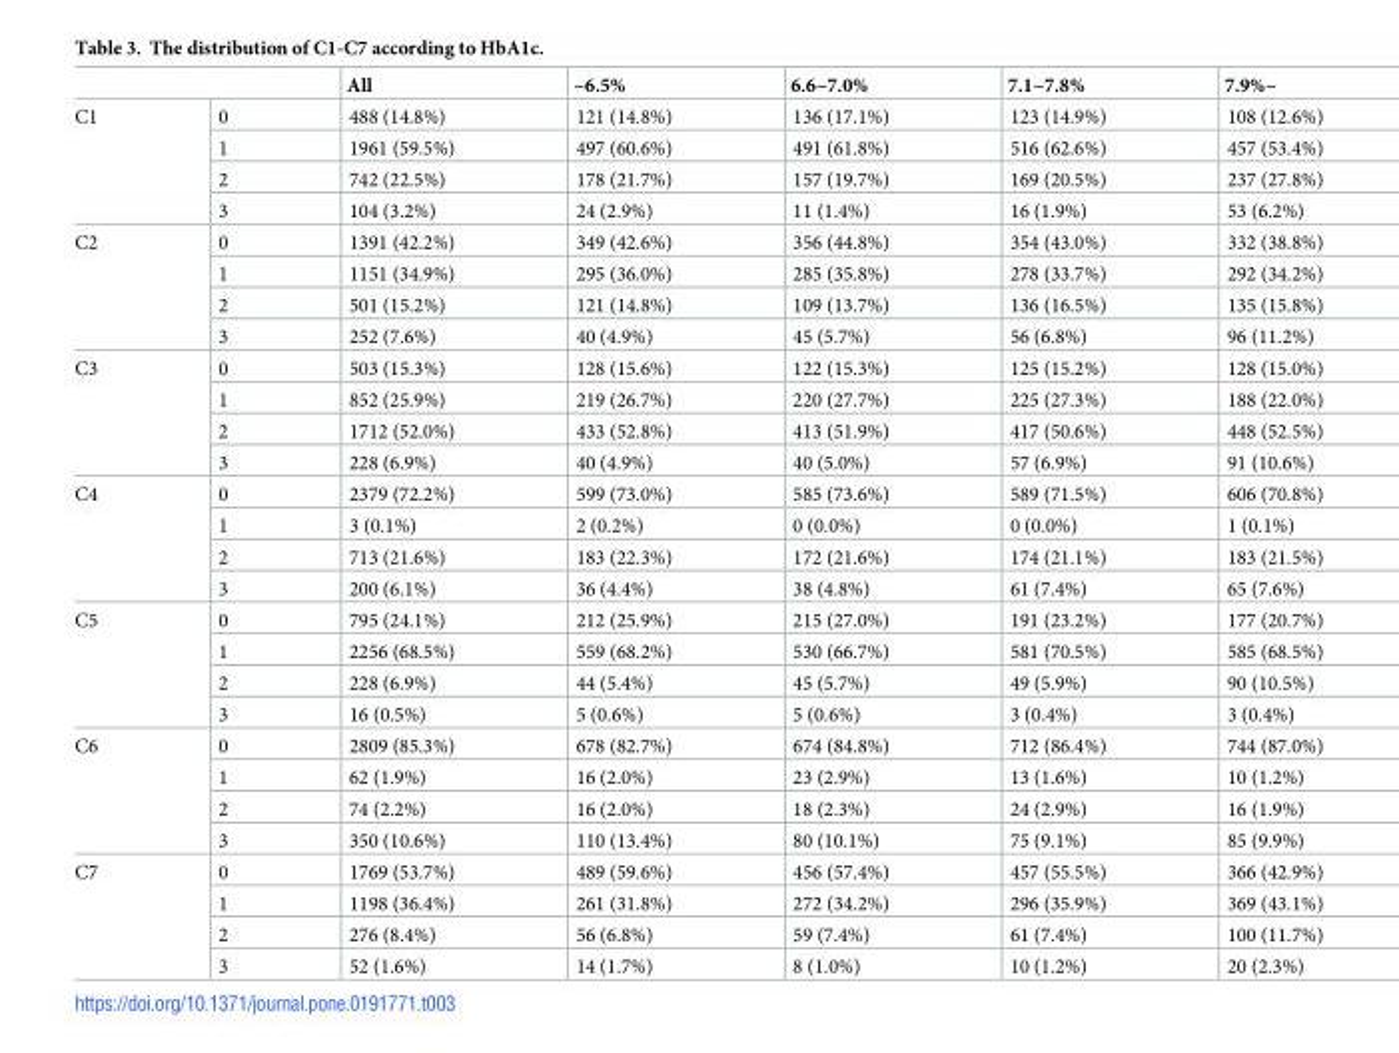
<table><thead><tr><td></td><td></td><td>All</td><td>~6.5%</td><td>6.6~7.0%</td><td>7.1~7.8%</td><td>7.9%~</td></tr></thead><tbody><tr><td rowspan="4">C1</td><td>0</td><td>488 (14.8%)</td><td>121 (14.8%)</td><td>136 (17.1%)</td><td>123 (14.9%)</td><td>108 (12.6%)</td></tr><tr><td>1</td><td>1961 (59.5%)</td><td>497 (60.6%)</td><td>491 (61.8%)</td><td>516 (62.6%)</td><td>457 (53.4%)</td></tr><tr><td>2</td><td>742 (22.5%)</td><td>178 (21.7%)</td><td>157 (19.7%)</td><td>169 (20.5%)</td><td>237 (27.8%)</td></tr><tr><td>3</td><td>104 (3.2%)</td><td>24 (2.9%)</td><td>11 (1.4%)</td><td>16 (1.9%)</td><td>53 (6.2%)</td></tr><tr><td rowspan="4">C2</td><td>0</td><td>1391 (42.2%)</td><td>349 (42.6%)</td><td>356 (44.8%)</td><td>354 (43.0%)</td><td>332 (38.8%)</td></tr><tr><td>1</td><td>1151 (34.9%)</td><td>295 (36.0%)</td><td>285 (35.8%)</td><td>278 (33.7%)</td><td>292 (34.2%)</td></tr><tr><td>2</td><td>501 (15.2%)</td><td>121 (14.8%)</td><td>109 (13.7%)</td><td>136 (16.5%)</td><td>135 (15.8%)</td></tr><tr><td>3</td><td>252 (7.6%)</td><td>40 (4.9%)</td><td>45 (5.7%)</td><td>56 (6.8%)</td><td>96 (11.2%)</td></tr><tr><td rowspan="4">C3</td><td>0</td><td>503 (15.3%)</td><td>128 (15.6%)</td><td>122 (15.3%)</td><td>125 (15.2%)</td><td>128 (15.0%)</td></tr><tr><td>1</td><td>852 (25.9%)</td><td>219 (26.7%)</td><td>220 (27.7%)</td><td>225 (27.3%)</td><td>188 (22.0%)</td></tr><tr><td>2</td><td>1712 (52.0%)</td><td>433 (52.8%)</td><td>413 (51.9%)</td><td>417 (50.6%)</td><td>448 (52.5%)</td></tr><tr><td>3</td><td>228 (6.9%)</td><td>40 (4.9%)</td><td>40 (5.0%)</td><td>57 (6.9%)</td><td>91 (10.6%)</td></tr><tr><td rowspan="4">C4</td><td>0</td><td>2379 (72.2%)</td><td>599 (73.0%)</td><td>585 (73.6%)</td><td>589 (71.5%)</td><td>606 (70.8%)</td></tr><tr><td>1</td><td>3 (0.1%)</td><td>2 (0.2%)</td><td>0 (0.0%)</td><td>0 (0.0%)</td><td>1 (0.1%)</td></tr><tr><td>2</td><td>713 (21.6%)</td><td>183 (22.3%)</td><td>172 (21.6%)</td><td>174 (21.1%)</td><td>183 (21.5%)</td></tr><tr><td>3</td><td>200 (6.1%)</td><td>36 (4.4%)</td><td>38 (4.8%)</td><td>61 (7.4%)</td><td>65 (7.6%)</td></tr><tr><td rowspan="4">C5</td><td>0</td><td>795 (24.1%)</td><td>212 (25.9%)</td><td>215 (27.0%)</td><td>191 (23.2%)</td><td>177 (20.7%)</td></tr><tr><td>1</td><td>2256 (68.5%)</td><td>559 (68.2%)</td><td>530 (66.7%)</td><td>581 (70.5%)</td><td>585 (68.5%)</td></tr><tr><td>2</td><td>228 (6.9%)</td><td>44 (5.4%)</td><td>45 (5.7%)</td><td>49 (5.9%)</td><td>90 (10.5%)</td></tr><tr><td>3</td><td>16 (0.5%)</td><td>5 (0.6%)</td><td>5 (0.6%)</td><td>3 (0.4%)</td><td>3 (0.4%)</td></tr><tr><td rowspan="4">C6</td><td>0</td><td>2809 (85.3%)</td><td>678 (82.7%)</td><td>674 (84.8%)</td><td>712 (86.4%)</td><td>744 (87.0%)</td></tr><tr><td>1</td><td>62 (1.9%)</td><td>16 (2.0%)</td><td>23 (2.9%)</td><td>13 (1.6%)</td><td>10 (1.2%)</td></tr><tr><td>2</td><td>74 (2.2%)</td><td>16 (2.0%)</td><td>18 (2.3%)</td><td>24 (2.9%)</td><td>16 (1.9%)</td></tr><tr><td>3</td><td>350 (10.6%)</td><td>110 (13.4%)</td><td>80 (10.1%)</td><td>75 (9.1%)</td><td>85 (9.9%)</td></tr><tr><td rowspan="4">C7</td><td>0</td><td>1769 (53.7%)</td><td>489 (59.6%)</td><td>456 (57.4%)</td><td>457 (55.5%)</td><td>366 (42.9%)</td></tr><tr><td>1</td><td>1198 (36.4%)</td><td>261 (31.8%)</td><td>272 (34.2%)</td><td>296 (35.9%)</td><td>369 (43.1%)</td></tr><tr><td>2</td><td>276 (8.4%)</td><td>56 (6.8%)</td><td>59 (7.4%)</td><td>61 (7.4%)</td><td>100 (11.7%)</td></tr><tr><td>3</td><td>52 (1.6%)</td><td>14 (1.7%)</td><td>8 (1.0%)</td><td>10 (1.2%)</td><td>20 (2.3%)</td></tr></tbody></table>